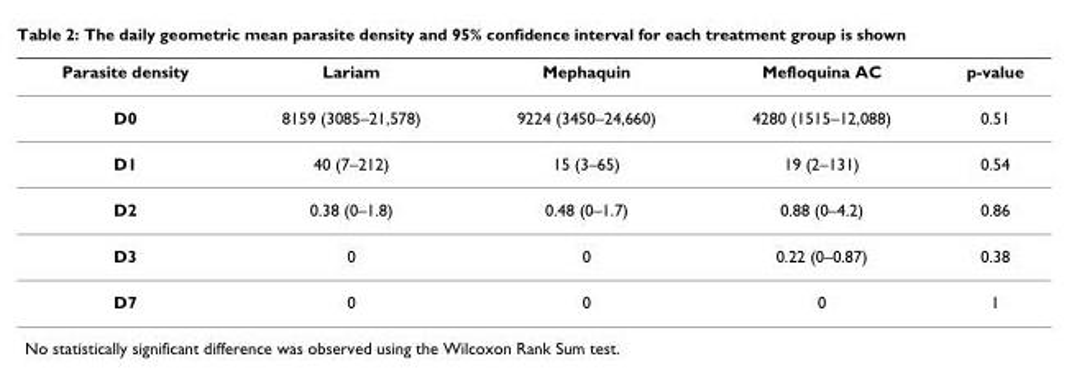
<table><thead><tr><td>Parasite density</td><td>Lariam</td><td>Mephaquin</td><td>Mefloquina AC</td><td>p-value</td></tr></thead><tbody><tr><td>D0</td><td>8159 (3085–21,578)</td><td>9224 (3450–24,660)</td><td>4280 (1515–12,088)</td><td>0.51</td></tr><tr><td>D1</td><td>40 (7–212)</td><td>15 (3–65)</td><td>19 (2–131)</td><td>0.54</td></tr><tr><td>D2</td><td>0.38 (0–1.8)</td><td>0.48 (0–1.7)</td><td>0.88 (0–4.2)</td><td>0.86</td></tr><tr><td>D3</td><td>0</td><td>0</td><td>0.22 (0–0.87)</td><td>0.38</td></tr><tr><td>D7</td><td>0</td><td>0</td><td>0</td><td>1</td></tr></tbody></table>